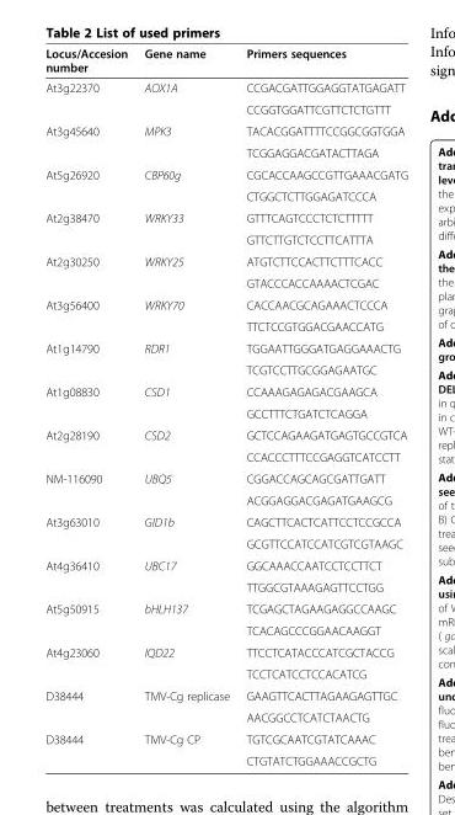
<table><thead><tr><td>Locus/Accesion number</td><td>Gene name</td><td>Primers sequences</td></tr></thead><tbody><tr><td rowspan="2">At3g22370</td><td rowspan="2">AOX1A</td><td>CCGACGATTGGAGGTATGAGATT</td></tr><tr><td>CCGGTGGATTCGTTCTCTGTTT</td></tr><tr><td rowspan="2">At3g45640</td><td rowspan="2">MPK3</td><td>TACACGGATTTTCCGGCGGTGGA</td></tr><tr><td>TCGGAGGACGATACTTAGA</td></tr><tr><td rowspan="2">At5g26920</td><td rowspan="2">CBP60g</td><td>CGCACCAAGCCGTTGAAACGATG</td></tr><tr><td>CTGGCTCTTGGAGATCCCA</td></tr><tr><td rowspan="2">At2g38470</td><td rowspan="2">WRKY33</td><td>GTTTCAGTCCCTCTCTTTTT</td></tr><tr><td>GTTCTTGTCTCCTTCATTTA</td></tr><tr><td rowspan="2">At2g30250</td><td rowspan="2">WRKY25</td><td>ATGTCTTCCACTTCTTTCACC</td></tr><tr><td>GTACCCACCAAAACTCGAC</td></tr><tr><td rowspan="2">At3g56400</td><td rowspan="2">WRKY70</td><td>CACCAACGCAGAAACTCCCA</td></tr><tr><td>TTCTCCGTGGACGAACCATG</td></tr><tr><td rowspan="2">At1g14790</td><td rowspan="2">RDR1</td><td>TGGAATTGGGATGAGGAAACTG</td></tr><tr><td>TCGTCCTTGCGGAGAATGC</td></tr><tr><td rowspan="2">At1g08830</td><td rowspan="2">CSD1</td><td>CCAAAGAGAGACGAAGCA</td></tr><tr><td>GCCTTTCTGATCTCAGGA</td></tr><tr><td rowspan="2">At2g28190</td><td rowspan="2">CSD2</td><td>GCTCCAGAAGATGAGTGCCGTCA</td></tr><tr><td>CCACCCTTTCCGAGGTCATCCTT</td></tr><tr><td rowspan="2">NM-116090</td><td rowspan="2">UBQ5</td><td>CGGACCAGCAGCGATTGATT</td></tr><tr><td>ACGGAGGACGAGATGAAGCG</td></tr><tr><td rowspan="2">At3g63010</td><td rowspan="2">GID1b</td><td>CAGCTTCACTCATTCCTCCGCCA</td></tr><tr><td>GCGTTCCATCCATCGTCGTAAGC</td></tr><tr><td rowspan="2">At4g36410</td><td rowspan="2">UBC17</td><td>GGCAAACCAATCCTCCTTCT</td></tr><tr><td>TTGGCGTAAAGAGTTCCTGG</td></tr><tr><td rowspan="2">At5g50915</td><td rowspan="2">bHLH137</td><td>TCGAGCTAGAAGAGGCCAAGC</td></tr><tr><td>TCACAGCCCGGAACAAGGT</td></tr><tr><td rowspan="2">At4g23060</td><td rowspan="2">IQD22</td><td>TTCCTCATACCCATCGCTACCG</td></tr><tr><td>TCCTCATCCTCCACATCG</td></tr><tr><td rowspan="2">D38444</td><td rowspan="2">TMV-Cg replicase</td><td>GAAGTTCACTTAGAAGAGTTGC</td></tr><tr><td>AACGGCCTCATCTAACTG</td></tr><tr><td rowspan="2">D38444</td><td rowspan="2">TMV-Cg CP</td><td>TGTCGCAATCGTATCAAAC</td></tr><tr><td>CTGTATCTGGAAACCGCTG</td></tr></tbody></table>